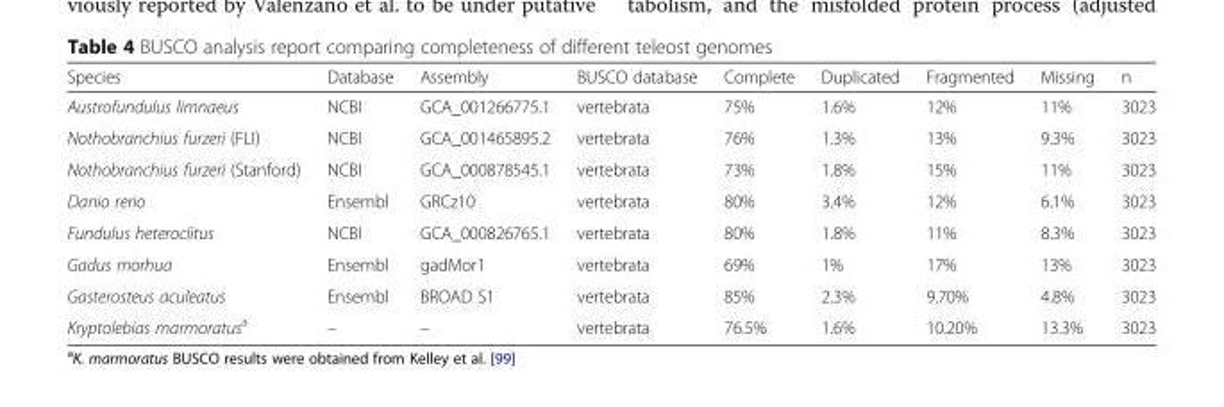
<table><thead><tr><td>Species</td><td>Database</td><td>Assembly</td><td>BUSCO database</td><td>Complete</td><td>Duplicated</td><td>Fragmented</td><td>Missing</td><td>n</td></tr></thead><tbody><tr><td>Austrofundulus limnaeus</td><td>NCBI</td><td>GCA_001266775.1</td><td>vertebrata</td><td>75%</td><td>1.6%</td><td>12%</td><td>11%</td><td>3023</td></tr><tr><td>Nothobranchius furzeri (FLI)</td><td>NCBI</td><td>GCA_001465895.2</td><td>vertebrata</td><td>76%</td><td>1.3%</td><td>13%</td><td>9.3%</td><td>3023</td></tr><tr><td>Nothobranchius furzeri (Stanford)</td><td>NCBI</td><td>GCA_000878545.1</td><td>vertebrata</td><td>73%</td><td>1.8%</td><td>15%</td><td>11%</td><td>3023</td></tr><tr><td>Danio rerio</td><td>Ensembl</td><td>GRCz10</td><td>vertebrata</td><td>80%</td><td>3.4%</td><td>12%</td><td>6.1%</td><td>3023</td></tr><tr><td>Fundulus heteroclitus</td><td>NCBI</td><td>GCA_000826765.1</td><td>vertebrata</td><td>80%</td><td>1.8%</td><td>11%</td><td>8.3%</td><td>3023</td></tr><tr><td>Gadus morhua</td><td>Ensembl</td><td>gadMor1</td><td>vertebrata</td><td>69%</td><td>1%</td><td>17%</td><td>13%</td><td>3023</td></tr><tr><td>Gasterosteus aculeatus</td><td>Ensembl</td><td>BROAD S1</td><td>vertebrata</td><td>85%</td><td>2.3%</td><td>9.70%</td><td>4.8%</td><td>3023</td></tr><tr><td>Kryptolebias marmoratus<sup>a</sup></td><td>–</td><td>–</td><td>vertebrata</td><td>76.5%</td><td>1.6%</td><td>10.20%</td><td>13.3%</td><td>3023</td></tr></tbody></table>